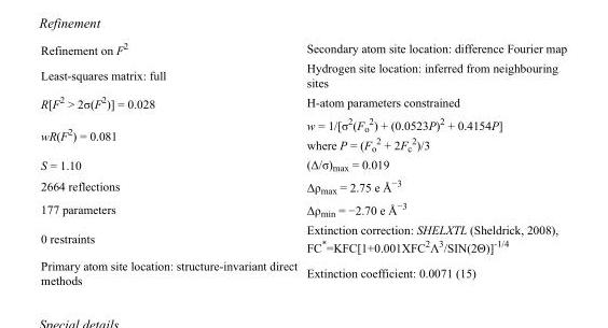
<table><tbody><tr><td>Refinement on F<sup>2</sup></td><td>Secondary atom site location: difference Fourier map</td></tr><tr><td>Least-squares matrix: full</td><td>Hydrogen site location: inferred from neighbouring sites</td></tr><tr><td>R[F<sup>2</sup> &gt; 2σ(F<sup>2</sup>)] = 0.028</td><td>H-atom parameters constrained</td></tr><tr><td>wR(F<sup>2</sup>) = 0.081</td><td>w = 1/[σ<sup>2</sup>(F<sub>o</sub> <sup>2</sup>) + (0.0523P)<sup>2</sup> + 0.4154P] where P = (F<sub>o</sub> <sup>2</sup> + 2F<sub>c</sub> <sup>2</sup>)/3</td></tr><tr><td>S = 1.10</td><td>(Δ/σ)<sub>max</sub> = 0.019</td></tr><tr><td>2664 reflections</td><td>Δρ<sub>max</sub> = 2.75 e Å<sup>−3</sup></td></tr><tr><td>177 parameters</td><td>Δρ<sub>min</sub> = −2.70 e Å<sup>−3</sup></td></tr><tr><td>0 restraints</td><td>Extinction correction: SHELXTL (Sheldrick, 2008), FC*=KFC[1+0.001XFC<sup>2</sup>Λ<sup>3</sup>/SIN(2Θ)]<sup>-1/4</sup></td></tr><tr><td>Primary atom site location: structure-invariant direct methods</td><td>Extinction coefficient: 0.0071 (15)</td></tr></tbody></table>